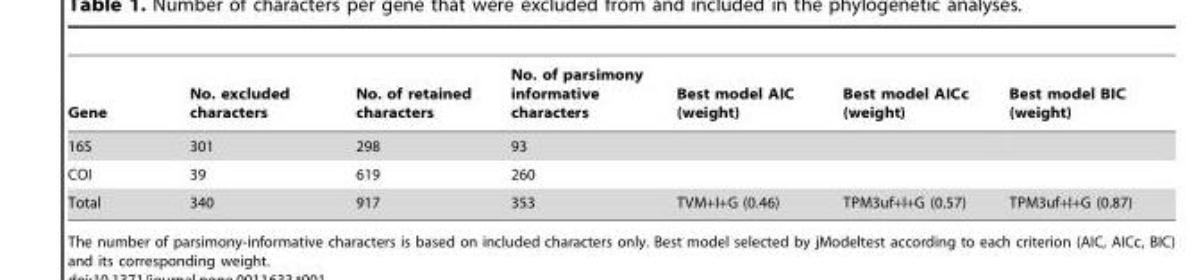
<table><thead><tr><td>Gene</td><td>No. excluded characters</td><td>No. of retained characters</td><td>No. of parsimony informative characters</td><td>Best model AIC (weight)</td><td>Best model AICc (weight)</td><td>Best model BIC (weight)</td></tr></thead><tbody><tr><td>16S</td><td>301</td><td>298</td><td>93</td><td></td><td></td><td></td></tr><tr><td>COI</td><td>39</td><td>619</td><td>260</td><td></td><td></td><td></td></tr><tr><td>Total</td><td>340</td><td>917</td><td>353</td><td>TVM+I+G (0.46)</td><td>TPM3uf+I+G (0.57)</td><td>TPM3uf+I+G (0.87)</td></tr></tbody></table>